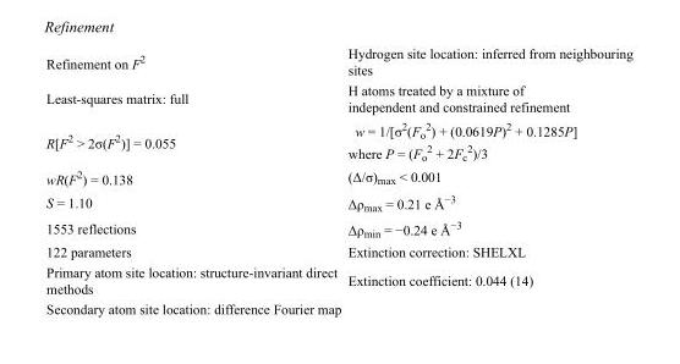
<table><tbody><tr><td>Refinement on F<sup>2</sup></td><td>Hydrogen site location: inferred from neighbouring sites</td></tr><tr><td>Least-squares matrix: full</td><td>H atoms treated by a mixture of independent and constrained refinement</td></tr><tr><td>R[F<sup>2</sup> &gt; 2σ(F<sup>2</sup>)] = 0.055</td><td>w = 1/[σ<sup>2</sup>(F<sub>o</sub> <sup>2</sup>) + (0.0619P)<sup>2</sup> + 0.1285P] where P = (F<sub>o</sub> <sup>2</sup> + 2F<sub>c</sub> <sup>2</sup>)/3</td></tr><tr><td>wR(F<sup>2</sup>) = 0.138</td><td>(Δ/σ)<sub>max</sub> &lt; 0.001</td></tr><tr><td>S = 1.10</td><td>Δρ<sub>max</sub> = 0.21 e Å<sup>−3</sup></td></tr><tr><td>1553 reflections</td><td>Δρ<sub>min</sub> = −0.24 e Å<sup>−3</sup></td></tr><tr><td>122 parameters</td><td>Extinction correction: SHELXL</td></tr><tr><td>Primary atom site location: structure-invariant direct methods</td><td>Extinction coefficient: 0.044 (14)</td></tr><tr><td>Secondary atom site location: difference Fourier map</td><td></td></tr></tbody></table>